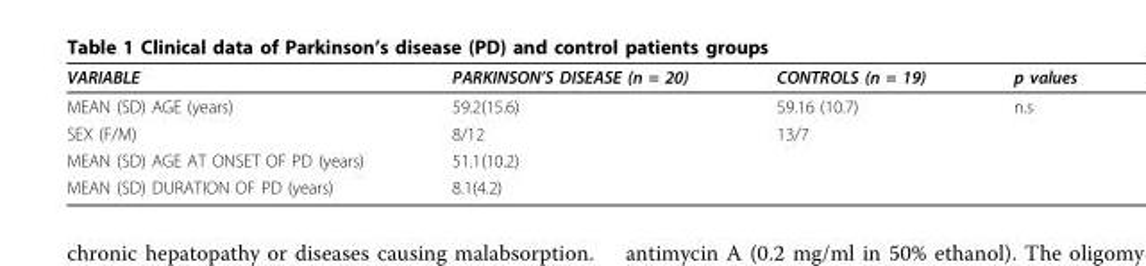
<table><thead><tr><td>VARIABLE</td><td>PARKINSON’S DISEASE (n = 20)</td><td>CONTROLS (n = 19)</td><td>p values</td></tr></thead><tbody><tr><td>MEAN (SD) AGE (years)</td><td>59.2(15.6)</td><td>59.16 (10.7)</td><td>n.s</td></tr><tr><td>SEX (F/M)</td><td>8/12</td><td>13/7</td><td></td></tr><tr><td>MEAN (SD) AGE AT ONSET OF PD (years)</td><td>51.1(10.2)</td><td></td><td></td></tr><tr><td>MEAN (SD) DURATION OF PD (years)</td><td>8.1(4.2)</td><td></td><td></td></tr></tbody></table>